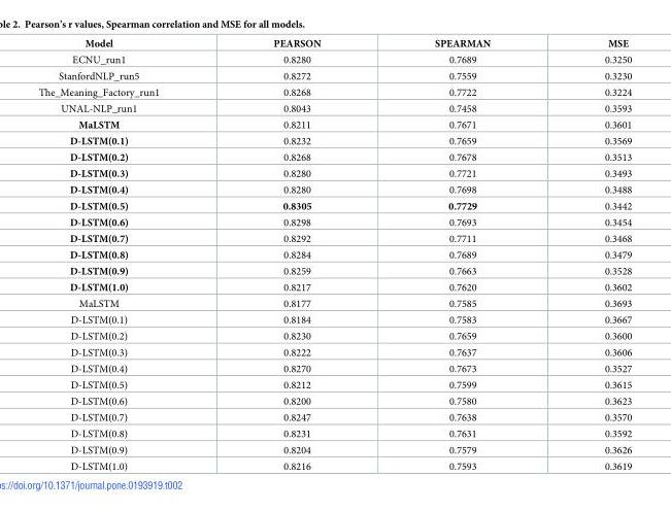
<table><thead><tr><td>Model</td><td>PEARSON</td><td>SPEARMAN</td><td>MSE</td></tr></thead><tbody><tr><td>ECNU_run1</td><td>0.8280</td><td>0.7689</td><td>0.3250</td></tr><tr><td>StanfordNLP_run5</td><td>0.8272</td><td>0.7559</td><td>0.3230</td></tr><tr><td>The_Meaning_Factory_run1</td><td>0.8268</td><td>0.7722</td><td>0.3224</td></tr><tr><td>UNAL-NLP_run1</td><td>0.8043</td><td>0.7458</td><td>0.3593</td></tr><tr><td>MaLSTM</td><td>0.8211</td><td>0.7671</td><td>0.3601</td></tr><tr><td>D-LSTM(0.1)</td><td>0.8232</td><td>0.7659</td><td>0.3569</td></tr><tr><td>D-LSTM(0.2)</td><td>0.8268</td><td>0.7678</td><td>0.3513</td></tr><tr><td>D-LSTM(0.3)</td><td>0.8280</td><td>0.7721</td><td>0.3493</td></tr><tr><td>D-LSTM(0.4)</td><td>0.8280</td><td>0.7698</td><td>0.3488</td></tr><tr><td>D-LSTM(0.5)</td><td>0.8305</td><td>0.7729</td><td>0.3442</td></tr><tr><td>D-LSTM(0.6)</td><td>0.8298</td><td>0.7693</td><td>0.3454</td></tr><tr><td>D-LSTM(0.7)</td><td>0.8292</td><td>0.7711</td><td>0.3468</td></tr><tr><td>D-LSTM(0.8)</td><td>0.8284</td><td>0.7689</td><td>0.3479</td></tr><tr><td>D-LSTM(0.9)</td><td>0.8259</td><td>0.7663</td><td>0.3528</td></tr><tr><td>D-LSTM(1.0)</td><td>0.8217</td><td>0.7620</td><td>0.3602</td></tr><tr><td>MaLSTM</td><td>0.8177</td><td>0.7585</td><td>0.3693</td></tr><tr><td>D-LSTM(0.1)</td><td>0.8184</td><td>0.7583</td><td>0.3667</td></tr><tr><td>D-LSTM(0.2)</td><td>0.8230</td><td>0.7659</td><td>0.3600</td></tr><tr><td>D-LSTM(0.3)</td><td>0.8222</td><td>0.7637</td><td>0.3606</td></tr><tr><td>D-LSTM(0.4)</td><td>0.8270</td><td>0.7673</td><td>0.3527</td></tr><tr><td>D-LSTM(0.5)</td><td>0.8212</td><td>0.7599</td><td>0.3615</td></tr><tr><td>D-LSTM(0.6)</td><td>0.8200</td><td>0.7580</td><td>0.3623</td></tr><tr><td>D-LSTM(0.7)</td><td>0.8247</td><td>0.7638</td><td>0.3570</td></tr><tr><td>D-LSTM(0.8)</td><td>0.8231</td><td>0.7631</td><td>0.3592</td></tr><tr><td>D-LSTM(0.9)</td><td>0.8204</td><td>0.7579</td><td>0.3626</td></tr><tr><td>D-LSTM(1.0)</td><td>0.8216</td><td>0.7593</td><td>0.3619</td></tr></tbody></table>